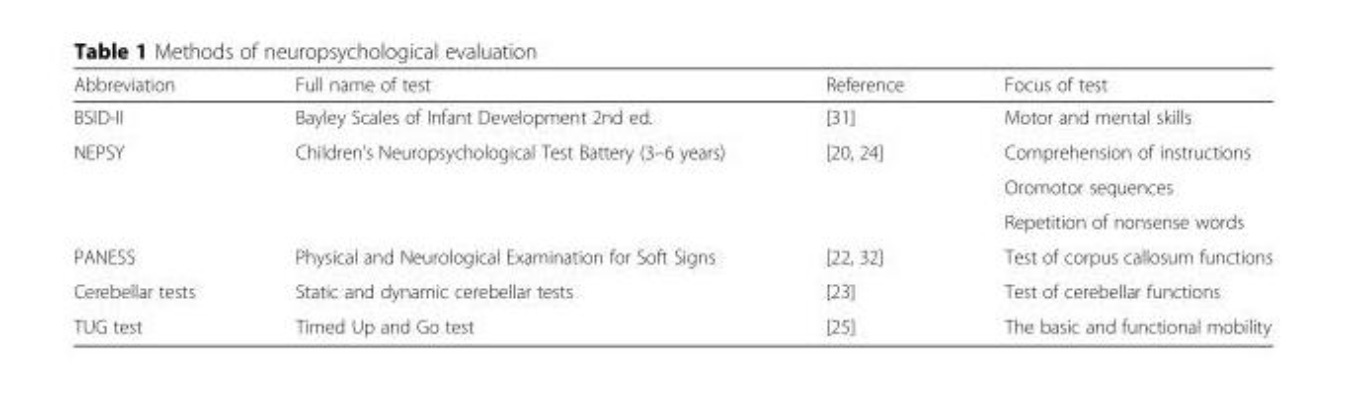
<table><thead><tr><td>Abbreviation</td><td>Full name of test</td><td>Reference</td><td>Focus of test</td></tr></thead><tbody><tr><td>BSID-II</td><td>Bayley Scales of Infant Development 2nd ed.</td><td>[31]</td><td>Motor and mental skills</td></tr><tr><td rowspan="3">NEPSY</td><td rowspan="3">Children’s Neuropsychological Test Battery (3–6 years)</td><td rowspan="3">[20, 24]</td><td>Comprehension of instructions</td></tr><tr><td>Oromotor sequences</td></tr><tr><td>Repetition of nonsense words</td></tr><tr><td>PANESS</td><td>Physical and Neurological Examination for Soft Signs</td><td>[22, 32]</td><td>Test of corpus callosum functions</td></tr><tr><td>Cerebellar tests</td><td>Static and dynamic cerebellar tests</td><td>[23]</td><td>Test of cerebellar functions</td></tr><tr><td>TUG test</td><td>Timed Up and Go test</td><td>[25]</td><td>The basic and functional mobility</td></tr></tbody></table>